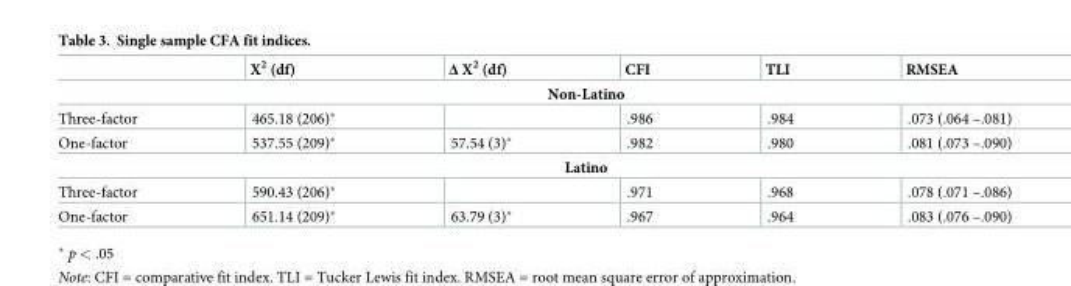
<table><thead><tr><td></td><td>Χ<sup>2</sup> (df)</td><td>Δ Χ<sup>2</sup> (df)</td><td>CFI</td><td>TLI</td><td>RMSEA</td></tr></thead><tbody><tr><td colspan="6">Non-Latino</td></tr><tr><td>Three-factor</td><td>465.18 (206)*</td><td></td><td>.986</td><td>.984</td><td>.073 (.064 –.081)</td></tr><tr><td>One-factor</td><td>537.55 (209)*</td><td>57.54 (3)*</td><td>.982</td><td>.980</td><td>.081 (.073 –.090)</td></tr><tr><td colspan="6">Latino</td></tr><tr><td>Three-factor</td><td>590.43 (206)*</td><td></td><td>.971</td><td>.968</td><td>.078 (.071 –.086)</td></tr><tr><td>One-factor</td><td>651.14 (209)*</td><td>63.79 (3)*</td><td>.967</td><td>.964</td><td>.083 (.076 –.090)</td></tr></tbody></table>